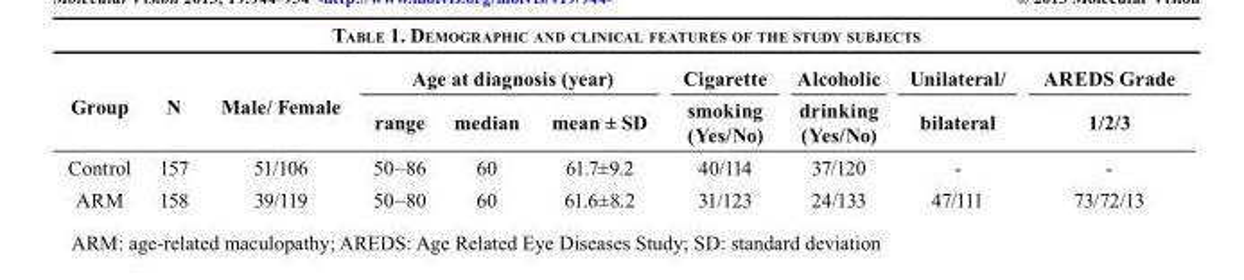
<table><thead><tr><td rowspan="2">Group</td><td rowspan="2">N</td><td rowspan="2">Male/ Female</td><td colspan="3">Age at diagnosis (year)</td><td rowspan="2">Cigarette smoking (Yes/No)</td><td rowspan="2">Alcoholic drinking (Yes/No)</td><td rowspan="2">Unilateral/ bilateral</td><td rowspan="2">AREDS Grade 1/2/3</td></tr><tr><td>range</td><td>median</td><td>mean ± SD</td></tr></thead><tbody><tr><td>Control</td><td>157</td><td>51/106</td><td>50–86</td><td>60</td><td>61.7±9.2</td><td>40/114</td><td>37/120</td><td>-</td><td>-</td></tr><tr><td>ARM</td><td>158</td><td>39/119</td><td>50–80</td><td>60</td><td>61.6±8.2</td><td>31/123</td><td>24/133</td><td>47/111</td><td>73/72/13</td></tr></tbody></table>